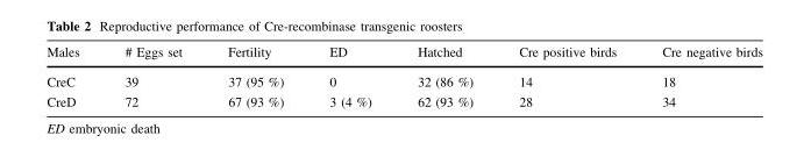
<table><thead><tr><td>Males</td><td># Eggs set</td><td>Fertility</td><td>ED</td><td>Hatched</td><td>Cre positive birds</td><td>Cre negative birds</td></tr></thead><tbody><tr><td>CreC</td><td>39</td><td>37 (95 %)</td><td>0</td><td>32 (86 %)</td><td>14</td><td>18</td></tr><tr><td>CreD</td><td>72</td><td>67 (93 %)</td><td>3 (4 %)</td><td>62 (93 %)</td><td>28</td><td>34</td></tr></tbody></table>